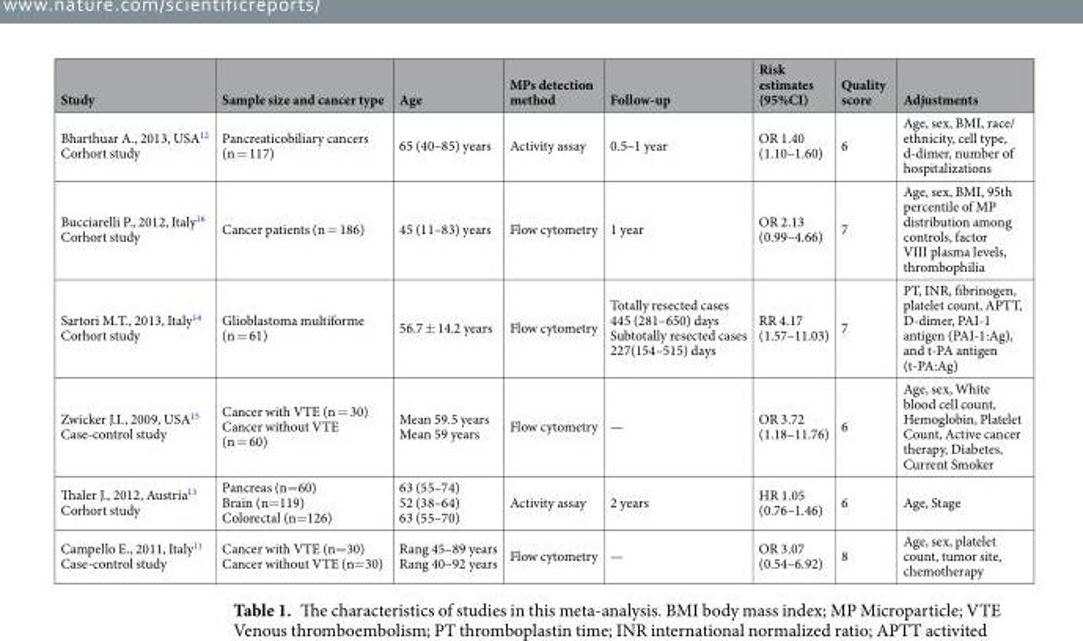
<table><thead><tr><td>Study</td><td>Sample size and cancer type</td><td>Age</td><td>MPs detection method</td><td>Follow-up</td><td>Risk estimates (95%CI)</td><td>Quality score</td><td>Adjustments</td></tr></thead><tbody><tr><td>Bharthuar A., 2013, USA<sup>12</sup> Corhort study</td><td>Pancreaticobiliary cancers (n = 117)</td><td>65 (40–85) years</td><td>Activity assay</td><td>0.5–1 year</td><td>OR 1.40 (1.10–1.60)</td><td>6</td><td>Age, sex, BMI, race/ ethnicity, cell type, d-dimer, number of hospitalizations</td></tr><tr><td>Bucciarelli P., 2012, Italy<sup>16</sup> Corhort study</td><td>Cancer patients (n = 186)</td><td>45 (11–83) years</td><td>Flow cytometry</td><td>1 year</td><td>OR 2.13 (0.99–4.66)</td><td>7</td><td>Age, sex, BMI, 95th percentile of MP distribution among controls, factor VIII plasma levels, thrombophilia</td></tr><tr><td>Sartori M.T., 2013, Italy<sup>14</sup> Corhort study</td><td>Glioblastoma multiforme (n = 61)</td><td>56.7 ± 14.2 years</td><td>Flow cytometry</td><td>Totally resected cases 445 (281–650) days Subtotally resected cases 227(154–515) days</td><td>RR 4.17 (1.57–11.03)</td><td>7</td><td>PT, INR, fibrinogen, platelet count, APTT, D-dimer, PAI-1 antigen (PAI-1:Ag), and t-PA antigen (t-PA:Ag)</td></tr><tr><td>Zwicker J.I., 2009, USA<sup>15</sup> Case-control study</td><td>Cancer with VTE (n = 30) Cancer without VTE (n = 60)</td><td>Mean 59.5 years Mean 59 years</td><td>Flow cytometry</td><td>—</td><td>OR 3.72 (1.18–11.76)</td><td>6</td><td>Age, sex, White blood cell count, Hemoglobin, Platelet Count, Active cancer therapy, Diabetes, Current Smoker</td></tr><tr><td>Thaler J., 2012, Austria<sup>13</sup> Corhort study</td><td>Pancreas (n=60) Brain (n=119) Colorectal (n=126)</td><td>63 (55–74) 52 (38–64) 63 (55–70)</td><td>Activity assay</td><td>2 years</td><td>HR 1.05 (0.76–1.46)</td><td>6</td><td>Age, Stage</td></tr><tr><td>Campello E., 2011, Italy<sup>11</sup> Case-control study</td><td>Cancer with VTE (n=30) Cancer without VTE (n=30)</td><td>Rang 45–89 years Rang 40–92 years</td><td>Flow cytometry</td><td>—</td><td>OR 3.07 (0.54–6.92)</td><td>8</td><td>Age, sex, platelet count, tumor site, chemotherapy</td></tr></tbody></table>